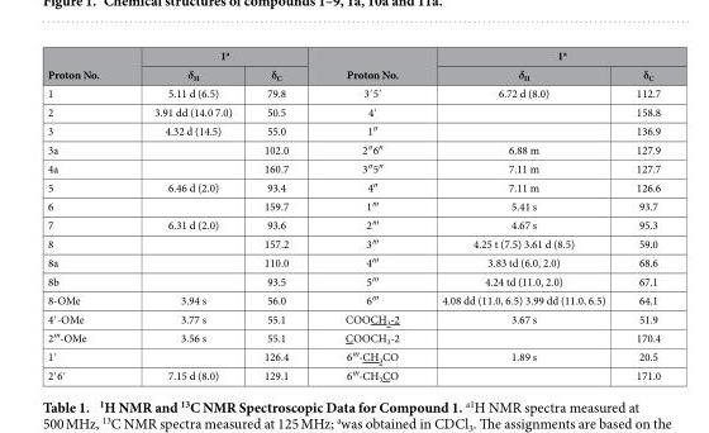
<table><thead><tr><td rowspan="2">Proton No.</td><td colspan="2">1<sup>a</sup></td><td rowspan="2">Proton No.</td><td colspan="2">1<sup>a</sup></td></tr><tr><td>δ<sub>H</sub></td><td>δ<sub>C</sub></td><td>δ<sub>H</sub></td><td>δ<sub>C</sub></td></tr></thead><tbody><tr><td>1</td><td>5.11 d (6.5)</td><td>79.8</td><td>3′ 5′</td><td>6.72 d (8.0)</td><td>112.7</td></tr><tr><td>2</td><td>3.91 dd (14.0 7.0)</td><td>50.5</td><td>4′</td><td></td><td>158.8</td></tr><tr><td>3</td><td>4.32 d (14.5)</td><td>55.0</td><td>1″</td><td></td><td>136.9</td></tr><tr><td>3a</td><td></td><td>102.0</td><td>2″ 6″</td><td>6.88 m</td><td>127.9</td></tr><tr><td>4a</td><td></td><td>160.7</td><td>3″ 5″</td><td>7.11 m</td><td>127.7</td></tr><tr><td>5</td><td>6.46 d (2.0)</td><td>93.4</td><td>4″</td><td>7.11 m</td><td>126.6</td></tr><tr><td>6</td><td></td><td>159.7</td><td>1′′′</td><td>5.41 s</td><td>93.7</td></tr><tr><td>7</td><td>6.31 d (2.0)</td><td>93.6</td><td>2′′′</td><td>4.67 s</td><td>95.3</td></tr><tr><td>8</td><td></td><td>157.2</td><td>3′′′</td><td>4.25 t (7.5) 3.61 d (8.5)</td><td>59.0</td></tr><tr><td>8a</td><td></td><td>110.0</td><td>4′′′</td><td>3.83 td (6.0, 2.0)</td><td>68.6</td></tr><tr><td>8b</td><td></td><td>93.5</td><td>5′′′</td><td>4.24 td (11.0, 2.0)</td><td>67.1</td></tr><tr><td>8-OMe</td><td>3.94 s</td><td>56.0</td><td>6′′′</td><td>4.08 dd (11.0, 6.5) 3.99 dd (11.0, 6.5)</td><td>64.1</td></tr><tr><td>4′ -OMe</td><td>3.77 s</td><td>55.1</td><td>COOCH<sub>3</sub>-2</td><td>3.67 s</td><td>51.9</td></tr><tr><td>2′′′-OMe</td><td>3.56 s</td><td>55.1</td><td>COOCH<sub>3</sub>-2</td><td></td><td>170.4</td></tr><tr><td>1′</td><td></td><td>126.4</td><td>6′′′-CH<sub>3</sub>CO</td><td>1.89 s</td><td>20.5</td></tr><tr><td>2′ 6′</td><td>7.15 d (8.0)</td><td>129.1</td><td>6′′′-CH<sub>3</sub>CO</td><td></td><td>171.0</td></tr></tbody></table>